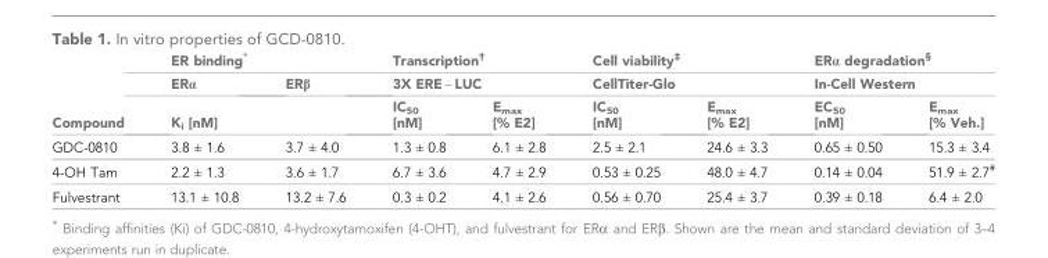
<table><thead><tr><td rowspan="3">Compound</td><td colspan="2">ER binding*</td><td rowspan="2" colspan="2">Transcription<sup>†</sup> 3X ERE ~ LUC</td><td rowspan="2" colspan="2">Cell viability<sup>‡</sup> CellTiter-Glo</td><td rowspan="2" colspan="2">ERα degradation<sup>§</sup> In-Cell Western</td></tr><tr><td>ERα</td><td>ERβ</td></tr><tr><td colspan="2">K<sub>i</sub> [nM]</td><td>IC<sub>50</sub> [nM]</td><td>E<sub>max</sub> [% E2]</td><td>IC<sub>50</sub> [nM]</td><td>E<sub>max</sub> [% E2]</td><td>EC<sub>50</sub> [nM]</td><td>E<sub>max</sub> [% Veh.]</td></tr></thead><tbody><tr><td>GDC-0810</td><td>3.8 ± 1.6</td><td>3.7 ± 4.0</td><td>1.3 ± 0.8</td><td>6.1 ± 2.8</td><td>2.5 ± 2.1</td><td>24.6 ± 3.3</td><td>0.65 ± 0.50</td><td>15.3 ± 3.4</td></tr><tr><td>4-OH Tam</td><td>2.2 ± 1.3</td><td>3.6 ± 1.7</td><td>6.7 ± 3.6</td><td>4.7 ± 2.9</td><td>0.53 ± 0.25</td><td>48.0 ± 4.7</td><td>0.14 ± 0.04</td><td>51.9 ± 2.7<sup>#</sup></td></tr><tr><td>Fulvestrant</td><td>13.1 ± 10.8</td><td>13.2 ± 7.6</td><td>0.3 ± 0.2</td><td>4.1 ± 2.6</td><td>0.56 ± 0.70</td><td>25.4 ± 3.7</td><td>0.39 ± 0.18</td><td>6.4 ± 2.0</td></tr></tbody></table>